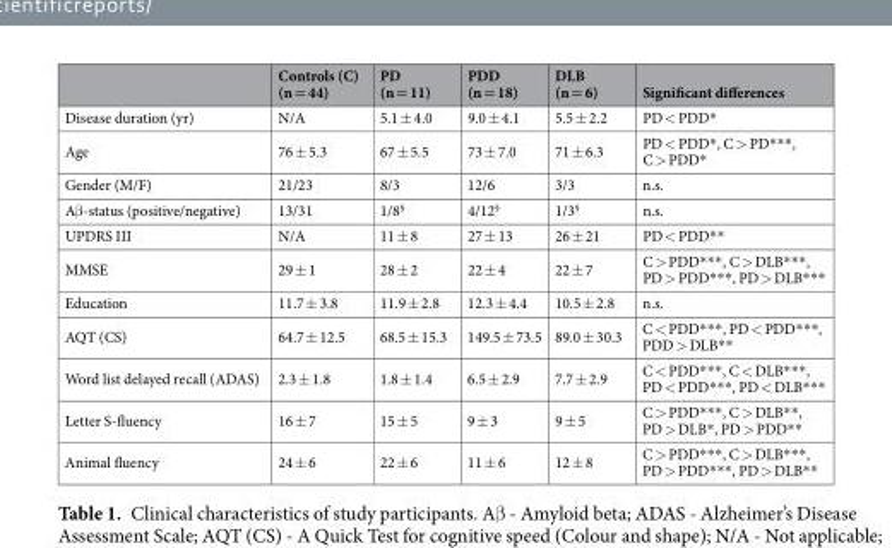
<table><thead><tr><td></td><td>Controls (C) (n = 44)</td><td>PD (n = 11)</td><td>PDD (n = 18)</td><td>DLB (n = 6)</td><td>Significant differences</td></tr></thead><tbody><tr><td>Disease duration (yr)</td><td>N/A</td><td>5.1 ± 4.0</td><td>9.0 ± 4.1</td><td>5.5 ± 2.2</td><td>PD &lt; PDD*</td></tr><tr><td>Age</td><td>76 ± 5.3</td><td>67 ± 5.5</td><td>73 ± 7.0</td><td>71 ± 6.3</td><td>PD &lt; PDD*, C &gt; PD***, C &gt; PDD*</td></tr><tr><td>Gender (M/F)</td><td>21/23</td><td>8/3</td><td>12/6</td><td>3/3</td><td>n.s.</td></tr><tr><td>Aβ-status (positive/negative)</td><td>13/31</td><td>1/8<sup>§</sup></td><td>4/12<sup>§</sup></td><td>1/3<sup>§</sup></td><td>n.s.</td></tr><tr><td>UPDRS III</td><td>N/A</td><td>11 ± 8</td><td>27 ± 13</td><td>26 ± 21</td><td>PD &lt; PDD**</td></tr><tr><td>MMSE</td><td>29 ± 1</td><td>28 ± 2</td><td>22 ± 4</td><td>22 ± 7</td><td>C &gt; PDD***, C &gt; DLB***, PD &gt; PDD***, PD &gt; DLB***</td></tr><tr><td>Education</td><td>11.7 ± 3.8</td><td>11.9 ± 2.8</td><td>12.3 ± 4.4</td><td>10.5 ± 2.8</td><td>n.s.</td></tr><tr><td>AQT (CS)</td><td>64.7 ± 12.5</td><td>68.5 ± 15.3</td><td>149.5 ± 73.5</td><td>89.0 ± 30.3</td><td>C &lt; PDD***, PD &lt; PDD***, PDD &gt; DLB**</td></tr><tr><td>Word list delayed recall (ADAS)</td><td>2.3 ± 1.8</td><td>1.8 ± 1.4</td><td>6.5 ± 2.9</td><td>7.7 ± 2.9</td><td>C &lt; PDD***, C &lt; DLB***, PD &lt; PDD***, PD &lt; DLB***</td></tr><tr><td>Letter S-fluency</td><td>16 ± 7</td><td>15 ± 5</td><td>9 ± 3</td><td>9 ± 5</td><td>C &gt; PDD***, C &gt; DLB**, PD &gt; DLB*, PD &gt; PDD**</td></tr><tr><td>Animal fluency</td><td>24 ± 6</td><td>22 ± 6</td><td>11 ± 6</td><td>12 ± 8</td><td>C &gt; PDD***, C &gt; DLB***, PD &gt; PDD***, PD &gt; DLB**</td></tr></tbody></table>